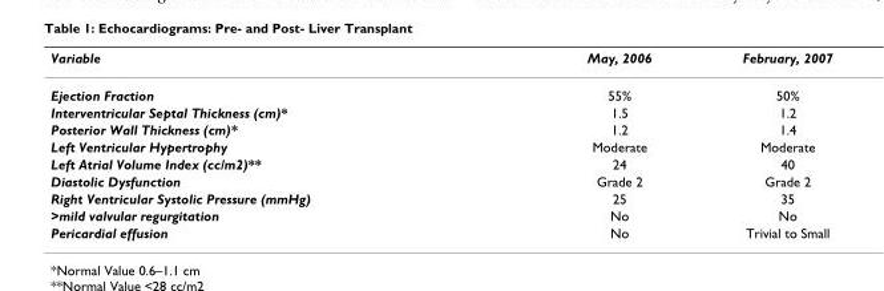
<table><thead><tr><td>Variable</td><td>May, 2006</td><td>February, 2007</td></tr></thead><tbody><tr><td>Ejection Fraction</td><td>55%</td><td>50%</td></tr><tr><td>Interventricular Septal Thickness (cm)*</td><td>1.5</td><td>1.2</td></tr><tr><td>Posterior Wall Thickness (cm)*</td><td>1.2</td><td>1.4</td></tr><tr><td>Left Ventricular Hypertrophy</td><td>Moderate</td><td>Moderate</td></tr><tr><td>Left Atrial Volume Index (cc/m2)**</td><td>24</td><td>40</td></tr><tr><td>Diastolic Dysfunction</td><td>Grade 2</td><td>Grade 2</td></tr><tr><td>Right Ventricular Systolic Pressure (mmHg)</td><td>25</td><td>35</td></tr><tr><td>&gt;mild valvular regurgitation</td><td>No</td><td>No</td></tr><tr><td>Pericardial effusion</td><td>No</td><td>Trivial to Small</td></tr></tbody></table>